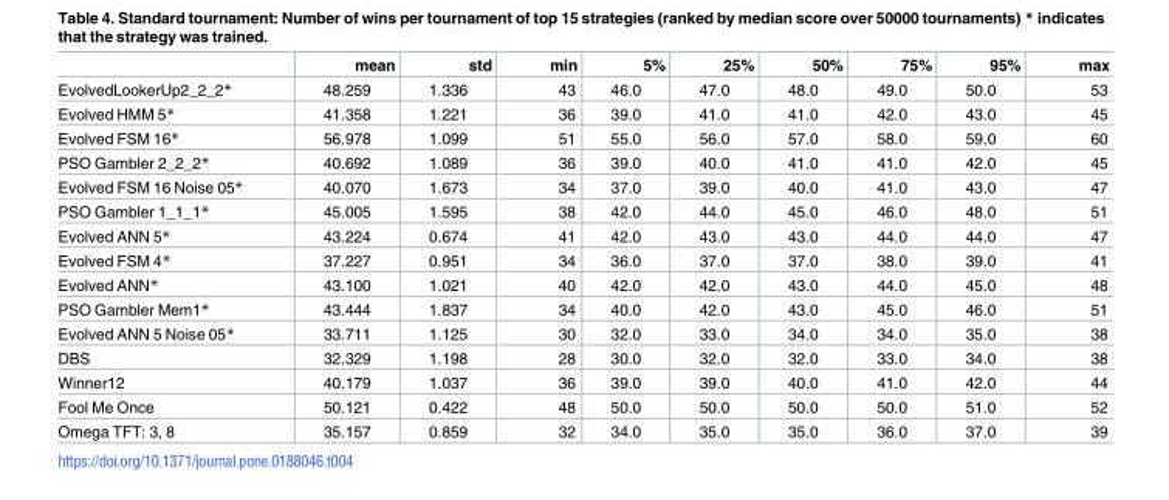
<table><thead><tr><td></td><td>mean</td><td>std</td><td>min</td><td>5%</td><td>25%</td><td>50%</td><td>75%</td><td>95%</td><td>max</td></tr></thead><tbody><tr><td>EvolvedLookerUp2_2_2*</td><td>48.259</td><td>1.336</td><td>43</td><td>46.0</td><td>47.0</td><td>48.0</td><td>49.0</td><td>50.0</td><td>53</td></tr><tr><td>Evolved HMM 5*</td><td>41.358</td><td>1.221</td><td>36</td><td>39.0</td><td>41.0</td><td>41.0</td><td>42.0</td><td>43.0</td><td>45</td></tr><tr><td>Evolved FSM 16*</td><td>56.978</td><td>1.099</td><td>51</td><td>55.0</td><td>56.0</td><td>57.0</td><td>58.0</td><td>59.0</td><td>60</td></tr><tr><td>PSO Gambler 2_2_2*</td><td>40.692</td><td>1.089</td><td>36</td><td>39.0</td><td>40.0</td><td>41.0</td><td>41.0</td><td>42.0</td><td>45</td></tr><tr><td>Evolved FSM 16 Noise 05*</td><td>40.070</td><td>1.673</td><td>34</td><td>37.0</td><td>39.0</td><td>40.0</td><td>41.0</td><td>43.0</td><td>47</td></tr><tr><td>PSO Gambler 1_1_1*</td><td>45.005</td><td>1.595</td><td>38</td><td>42.0</td><td>44.0</td><td>45.0</td><td>46.0</td><td>48.0</td><td>51</td></tr><tr><td>Evolved ANN 5*</td><td>43.224</td><td>0.674</td><td>41</td><td>42.0</td><td>43.0</td><td>43.0</td><td>44.0</td><td>44.0</td><td>47</td></tr><tr><td>Evolved FSM 4*</td><td>37.227</td><td>0.951</td><td>34</td><td>36.0</td><td>37.0</td><td>37.0</td><td>38.0</td><td>39.0</td><td>41</td></tr><tr><td>Evolved ANN*</td><td>43.100</td><td>1.021</td><td>40</td><td>42.0</td><td>42.0</td><td>43.0</td><td>44.0</td><td>45.0</td><td>48</td></tr><tr><td>PSO Gambler Mem1*</td><td>43.444</td><td>1.837</td><td>34</td><td>40.0</td><td>42.0</td><td>43.0</td><td>45.0</td><td>46.0</td><td>51</td></tr><tr><td>Evolved ANN 5 Noise 05*</td><td>33.711</td><td>1.125</td><td>30</td><td>32.0</td><td>33.0</td><td>34.0</td><td>34.0</td><td>35.0</td><td>38</td></tr><tr><td>DBS</td><td>32.329</td><td>1.198</td><td>28</td><td>30.0</td><td>32.0</td><td>32.0</td><td>33.0</td><td>34.0</td><td>38</td></tr><tr><td>Winner12</td><td>40.179</td><td>1.037</td><td>36</td><td>39.0</td><td>39.0</td><td>40.0</td><td>41.0</td><td>42.0</td><td>44</td></tr><tr><td>Fool Me Once</td><td>50.121</td><td>0.422</td><td>48</td><td>50.0</td><td>50.0</td><td>50.0</td><td>50.0</td><td>51.0</td><td>52</td></tr><tr><td>Omega TFT: 3, 8</td><td>35.157</td><td>0.859</td><td>32</td><td>34.0</td><td>35.0</td><td>35.0</td><td>36.0</td><td>37.0</td><td>39</td></tr></tbody></table>